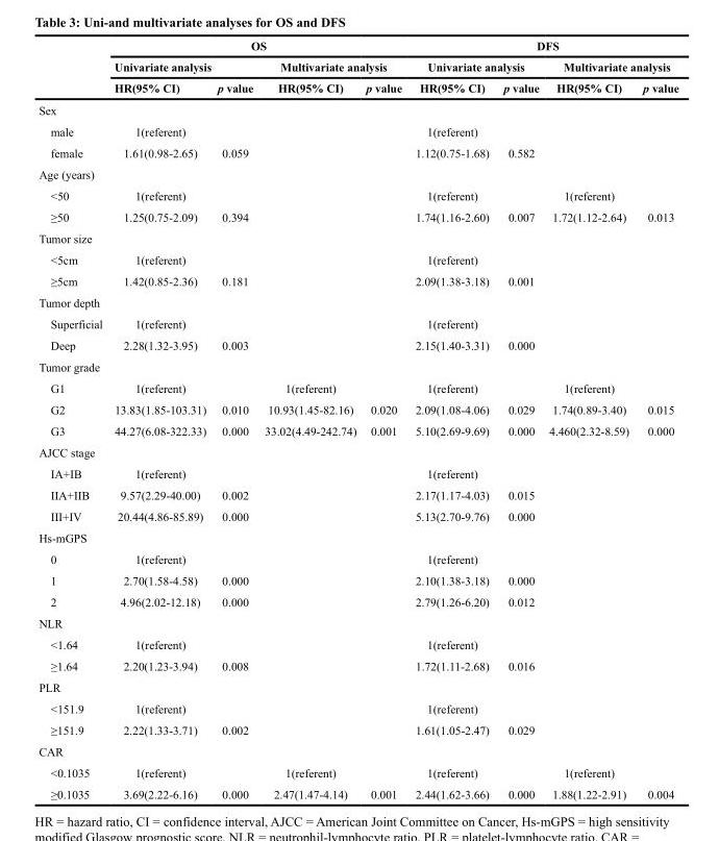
<table><thead><tr><td rowspan="3"></td><td colspan="4">OS</td><td colspan="4">DFS</td></tr><tr><td colspan="2">Univariate analysis</td><td colspan="2">Multivariate analysis</td><td colspan="2">Univariate analysis</td><td colspan="2">Multivariate analysis</td></tr><tr><td>HR(95% CI)</td><td>p value</td><td>HR(95% CI)</td><td>p value</td><td>HR(95% CI)</td><td>p value</td><td>HR(95% CI)</td><td>p value</td></tr></thead><tbody><tr><td colspan="9">Sex</td></tr><tr><td>male</td><td>1(referent)</td><td></td><td></td><td></td><td>1(referent)</td><td></td><td></td><td></td></tr><tr><td>female</td><td>1.61(0.98-2.65)</td><td>0.059</td><td></td><td></td><td>1.12(0.75-1.68)</td><td>0.582</td><td></td><td></td></tr><tr><td colspan="9">Age (years)</td></tr><tr><td>&lt;50</td><td>1(referent)</td><td></td><td></td><td></td><td>1(referent)</td><td></td><td>1(referent)</td><td></td></tr><tr><td>≥50</td><td>1.25(0.75-2.09)</td><td>0.394</td><td></td><td></td><td>1.74(1.16-2.60)</td><td>0.007</td><td>1.72(1.12-2.64)</td><td>0.013</td></tr><tr><td colspan="9">Tumor size</td></tr><tr><td>&lt;5cm</td><td>1(referent)</td><td></td><td></td><td></td><td>1(referent)</td><td></td><td></td><td></td></tr><tr><td>≥5cm</td><td>1.42(0.85-2.36)</td><td>0.181</td><td></td><td></td><td>2.09(1.38-3.18)</td><td>0.001</td><td></td><td></td></tr><tr><td colspan="9">Tumor depth</td></tr><tr><td>Superficial</td><td>1(referent)</td><td></td><td></td><td></td><td>1(referent)</td><td></td><td></td><td></td></tr><tr><td>Deep</td><td>2.28(1.32-3.95)</td><td>0.003</td><td></td><td></td><td>2.15(1.40-3.31)</td><td>0.000</td><td></td><td></td></tr><tr><td colspan="9">Tumor grade</td></tr><tr><td>G1</td><td>1(referent)</td><td></td><td>1(referent)</td><td></td><td>1(referent)</td><td></td><td>1(referent)</td><td></td></tr><tr><td>G2</td><td>13.83(1.85-103.31)</td><td>0.010</td><td>10.93(1.45-82.16)</td><td>0.020</td><td>2.09(1.08-4.06)</td><td>0.029</td><td>1.74(0.89-3.40)</td><td>0.015</td></tr><tr><td>G3</td><td>44.27(6.08-322.33)</td><td>0.000</td><td>33.02(4.49-242.74)</td><td>0.001</td><td>5.10(2.69-9.69)</td><td>0.000</td><td>4.460(2.32-8.59)</td><td>0.000</td></tr><tr><td colspan="9">AJCC stage</td></tr><tr><td>IA+IB</td><td>1(referent)</td><td></td><td></td><td></td><td>1(referent)</td><td></td><td></td><td></td></tr><tr><td>IIA+IIB</td><td>9.57(2.29-40.00)</td><td>0.002</td><td></td><td></td><td>2.17(1.17-4.03)</td><td>0.015</td><td></td><td></td></tr><tr><td>III+IV</td><td>20.44(4.86-85.89)</td><td>0.000</td><td></td><td></td><td>5.13(2.70-9.76)</td><td>0.000</td><td></td><td></td></tr><tr><td colspan="9">Hs-mGPS</td></tr><tr><td>0</td><td>1(referent)</td><td></td><td></td><td></td><td>1(referent)</td><td></td><td></td><td></td></tr><tr><td>1</td><td>2.70(1.58-4.58)</td><td>0.000</td><td></td><td></td><td>2.10(1.38-3.18)</td><td>0.000</td><td></td><td></td></tr><tr><td>2</td><td>4.96(2.02-12.18)</td><td>0.000</td><td></td><td></td><td>2.79(1.26-6.20)</td><td>0.012</td><td></td><td></td></tr><tr><td colspan="9">NLR</td></tr><tr><td>&lt;1.64</td><td>1(referent)</td><td></td><td></td><td></td><td>1(referent)</td><td></td><td></td><td></td></tr><tr><td>≥1.64</td><td>2.20(1.23-3.94)</td><td>0.008</td><td></td><td></td><td>1.72(1.11-2.68)</td><td>0.016</td><td></td><td></td></tr><tr><td colspan="9">PLR</td></tr><tr><td>&lt;151.9</td><td>1(referent)</td><td></td><td></td><td></td><td>1(referent)</td><td></td><td></td><td></td></tr><tr><td>≥151.9</td><td>2.22(1.33-3.71)</td><td>0.002</td><td></td><td></td><td>1.61(1.05-2.47)</td><td>0.029</td><td></td><td></td></tr><tr><td colspan="9">CAR</td></tr><tr><td>&lt;0.1035</td><td>1(referent)</td><td></td><td>1(referent)</td><td></td><td>1(referent)</td><td></td><td>1(referent)</td><td></td></tr><tr><td>≥0.1035</td><td>3.69(2.22-6.16)</td><td>0.000</td><td>2.47(1.47-4.14)</td><td>0.001</td><td>2.44(1.62-3.66)</td><td>0.000</td><td>1.88(1.22-2.91)</td><td>0.004</td></tr></tbody></table>